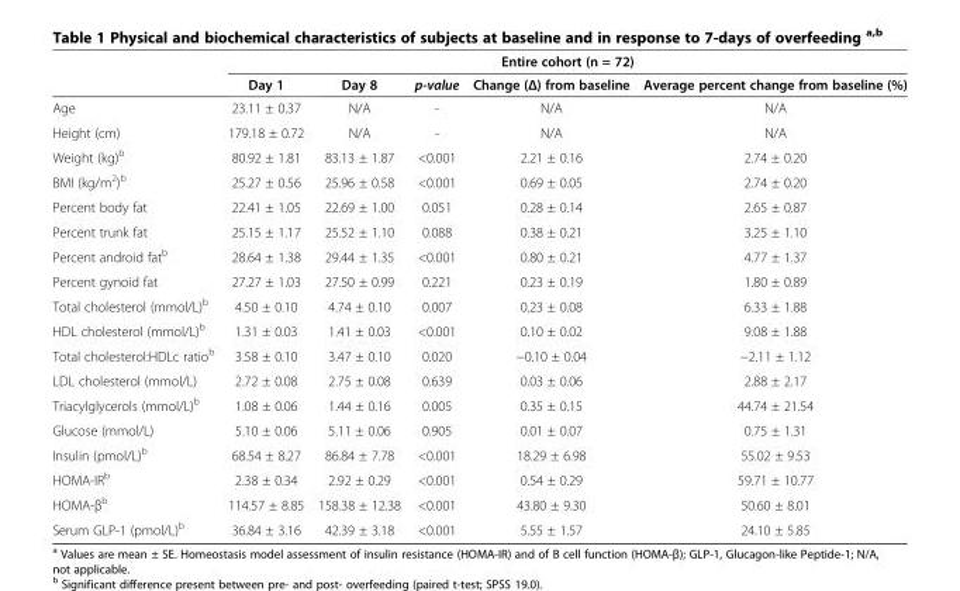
<table><thead><tr><td rowspan="2"></td><td colspan="5">Entire cohort (n = 72)</td></tr><tr><td>Day 1</td><td>Day 8</td><td>p-value</td><td>Change (Δ) from baseline</td><td>Average percent change from baseline (%)</td></tr></thead><tbody><tr><td>Age</td><td>23.11 ± 0.37</td><td>N/A</td><td>-</td><td>N/A</td><td>N/A</td></tr><tr><td>Height (cm)</td><td>179.18 ± 0.72</td><td>N/A</td><td>-</td><td>N/A</td><td>N/A</td></tr><tr><td>Weight (kg)<sup>b</sup></td><td>80.92 ± 1.81</td><td>83.13 ± 1.87</td><td>&lt;0.001</td><td>2.21 ± 0.16</td><td>2.74 ± 0.20</td></tr><tr><td>BMI (kg/m<sup>2</sup>)<sup>b</sup></td><td>25.27 ± 0.56</td><td>25.96 ± 0.58</td><td>&lt;0.001</td><td>0.69 ± 0.05</td><td>2.74 ± 0.20</td></tr><tr><td>Percent body fat</td><td>22.41 ± 1.05</td><td>22.69 ± 1.00</td><td>0.051</td><td>0.28 ± 0.14</td><td>2.65 ± 0.87</td></tr><tr><td>Percent trunk fat</td><td>25.15 ± 1.17</td><td>25.52 ± 1.10</td><td>0.088</td><td>0.38 ± 0.21</td><td>3.25 ± 1.10</td></tr><tr><td>Percent android fat<sup>b</sup></td><td>28.64 ± 1.38</td><td>29.44 ± 1.35</td><td>&lt;0.001</td><td>0.80 ± 0.21</td><td>4.77 ± 1.37</td></tr><tr><td>Percent gynoid fat</td><td>27.27 ± 1.03</td><td>27.50 ± 0.99</td><td>0.221</td><td>0.23 ± 0.19</td><td>1.80 ± 0.89</td></tr><tr><td>Total cholesterol (mmol/L)<sup>b</sup></td><td>4.50 ± 0.10</td><td>4.74 ± 0.10</td><td>0.007</td><td>0.23 ± 0.08</td><td>6.33 ± 1.88</td></tr><tr><td>HDL cholesterol (mmol/L)<sup>b</sup></td><td>1.31 ± 0.03</td><td>1.41 ± 0.03</td><td>&lt;0.001</td><td>0.10 ± 0.02</td><td>9.08 ± 1.88</td></tr><tr><td>Total cholesterol:HDLc ratio<sup>b</sup></td><td>3.58 ± 0.10</td><td>3.47 ± 0.10</td><td>0.020</td><td>−0.10 ± 0.04</td><td>−2.11 ± 1.12</td></tr><tr><td>LDL cholesterol (mmol/L)</td><td>2.72 ± 0.08</td><td>2.75 ± 0.08</td><td>0.639</td><td>0.03 ± 0.06</td><td>2.88 ± 2.17</td></tr><tr><td>Triacylglycerols (mmol/L)<sup>b</sup></td><td>1.08 ± 0.06</td><td>1.44 ± 0.16</td><td>0.005</td><td>0.35 ± 0.15</td><td>44.74 ± 21.54</td></tr><tr><td>Glucose (mmol/L)</td><td>5.10 ± 0.06</td><td>5.11 ± 0.06</td><td>0.905</td><td>0.01 ± 0.07</td><td>0.75 ± 1.31</td></tr><tr><td>Insulin (pmol/L)<sup>b</sup></td><td>68.54 ± 8.27</td><td>86.84 ± 7.78</td><td>&lt;0.001</td><td>18.29 ± 6.98</td><td>55.02 ± 9.53</td></tr><tr><td>HOMA-IR<sup>b</sup></td><td>2.38 ± 0.34</td><td>2.92 ± 0.29</td><td>&lt;0.001</td><td>0.54 ± 0.29</td><td>59.71 ± 10.77</td></tr><tr><td>HOMA-β<sup>b</sup></td><td>114.57 ± 8.85</td><td>158.38 ± 12.38</td><td>&lt;0.001</td><td>43.80 ± 9.30</td><td>50.60 ± 8.01</td></tr><tr><td>Serum GLP-1 (pmol/L)<sup>b</sup></td><td>36.84 ± 3.16</td><td>42.39 ± 3.18</td><td>&lt;0.001</td><td>5.55 ± 1.57</td><td>24.10 ± 5.85</td></tr></tbody></table>